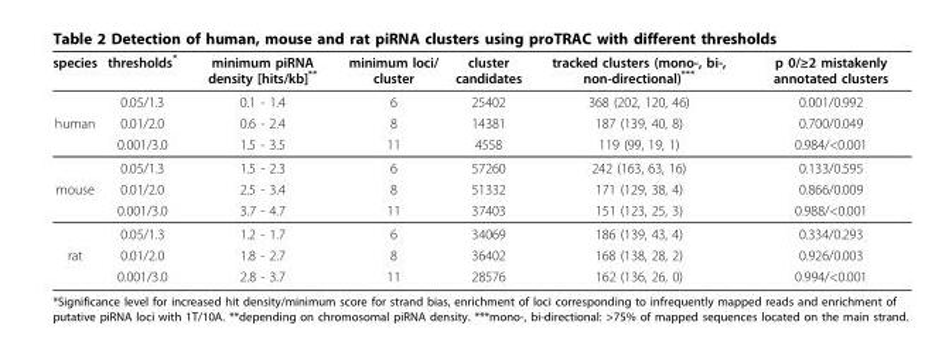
<table><thead><tr><td>species</td><td>thresholds*</td><td>minimum piRNA density [hits/kb]**</td><td>minimum loci/ cluster</td><td>cluster candidates</td><td>tracked clusters (mono-, bi-, non-directional)***</td><td>p 0/≥2 mistakenly annotated clusters</td></tr></thead><tbody><tr><td></td><td>0.05/1.3</td><td>0.1 - 1.4</td><td>6</td><td>25402</td><td>368 (202, 120, 46)</td><td>0.001/0.992</td></tr><tr><td rowspan="3">human</td><td>0.01/2.0</td><td>0.6 - 2.4</td><td>8</td><td>14381</td><td>187 (139, 40, 8)</td><td>0.700/0.049</td></tr><tr><td>0.001/3.0</td><td>1.5 - 3.5</td><td>11</td><td>4558</td><td>119 (99, 19, 1)</td><td>0.984/&lt;0.001</td></tr><tr><td>0.05/1.3</td><td>1.5 - 2.3</td><td>6</td><td>57260</td><td>242 (163, 63, 16)</td><td>0.133/0.595</td></tr><tr><td rowspan="3">mouse</td><td>0.01/2.0</td><td>2.5 - 3.4</td><td>8</td><td>51332</td><td>171 (129, 38, 4)</td><td>0.866/0.009</td></tr><tr><td>0.001/3.0</td><td>3.7 - 4.7</td><td>11</td><td>37403</td><td>151 (123, 25, 3)</td><td>0.988/&lt;0.001</td></tr><tr><td>0.05/1.3</td><td>1.2 - 1.7</td><td>6</td><td>34069</td><td>186 (139, 43, 4)</td><td>0.334/0.293</td></tr><tr><td rowspan="2">rat</td><td>0.01/2.0</td><td>1.8 - 2.7</td><td>8</td><td>36402</td><td>168 (138, 28, 2)</td><td>0.926/0.003</td></tr><tr><td>0.001/3.0</td><td>2.8 - 3.7</td><td>11</td><td>28576</td><td>162 (136, 26, 0)</td><td>0.994/&lt;0.001</td></tr></tbody></table>